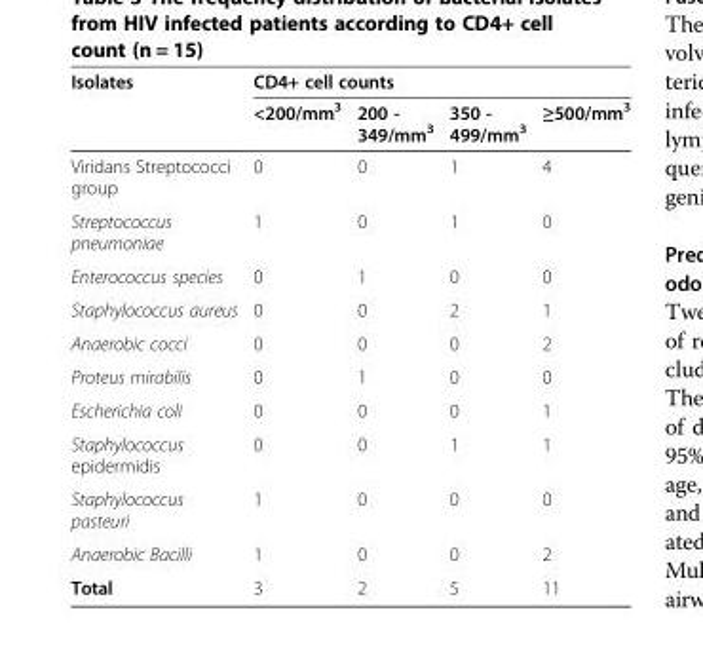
<table><thead><tr><td rowspan="2">Isolates</td><td colspan="4">CD4+ cell counts</td></tr><tr><td>&lt;200/mm<sup>3</sup></td><td>200 - 349/mm<sup>3</sup></td><td>350 - 499/mm<sup>3</sup></td><td>≥500/mm<sup>3</sup></td></tr></thead><tbody><tr><td>Viridans Streptococci group</td><td>0</td><td>0</td><td>1</td><td>4</td></tr><tr><td>Streptococcus pneumoniae</td><td>1</td><td>0</td><td>1</td><td>0</td></tr><tr><td>Enterococcus species</td><td>0</td><td>1</td><td>0</td><td>0</td></tr><tr><td>Staphylococcus aureus</td><td>0</td><td>0</td><td>2</td><td>1</td></tr><tr><td>Anaerobic cocci</td><td>0</td><td>0</td><td>0</td><td>2</td></tr><tr><td>Proteus mirabilis</td><td>0</td><td>1</td><td>0</td><td>0</td></tr><tr><td>Escherichia coli</td><td>0</td><td>0</td><td>0</td><td>1</td></tr><tr><td>Staphylococcus epidermidis</td><td>0</td><td>0</td><td>1</td><td>1</td></tr><tr><td>Staphylococcus pasteuri</td><td>1</td><td>0</td><td>0</td><td>0</td></tr><tr><td>Anaerobic Bacilli</td><td>1</td><td>0</td><td>0</td><td>2</td></tr><tr><td>Total</td><td>3</td><td>2</td><td>5</td><td>11</td></tr></tbody></table>